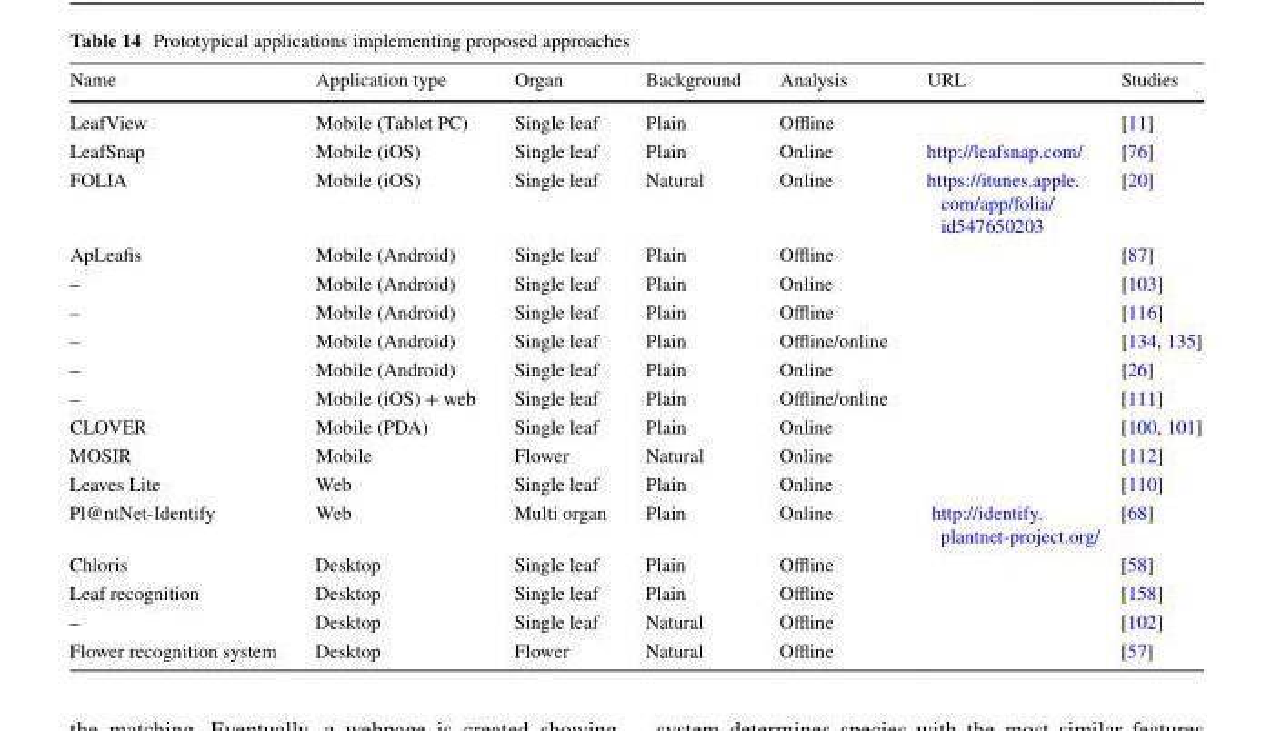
<table><thead><tr><td>Name</td><td>Application type</td><td>Organ</td><td>Background</td><td>Analysis</td><td>URL</td><td>Studies</td></tr></thead><tbody><tr><td>LeafView</td><td>Mobile (Tablet PC)</td><td>Single leaf</td><td>Plain</td><td>Offline</td><td></td><td>[11]</td></tr><tr><td>LeafSnap</td><td>Mobile (iOS)</td><td>Single leaf</td><td>Plain</td><td>Online</td><td>http://leafsnap.com/</td><td>[76]</td></tr><tr><td>FOLIA</td><td>Mobile (iOS)</td><td>Single leaf</td><td>Natural</td><td>Online</td><td>https://itunes.apple. com/app/folia/ id547650203</td><td>[20]</td></tr><tr><td>ApLeafis</td><td>Mobile (Android)</td><td>Single leaf</td><td>Plain</td><td>Offline</td><td></td><td>[87]</td></tr><tr><td>–</td><td>Mobile (Android)</td><td>Single leaf</td><td>Plain</td><td>Online</td><td></td><td>[103]</td></tr><tr><td>–</td><td>Mobile (Android)</td><td>Single leaf</td><td>Plain</td><td>Offline</td><td></td><td>[116]</td></tr><tr><td>–</td><td>Mobile (Android)</td><td>Single leaf</td><td>Plain</td><td>Offline/online</td><td></td><td>[134, 135]</td></tr><tr><td>–</td><td>Mobile (Android)</td><td>Single leaf</td><td>Plain</td><td>Online</td><td></td><td>[26]</td></tr><tr><td>–</td><td>Mobile (iOS) + web</td><td>Single leaf</td><td>Plain</td><td>Offline/online</td><td></td><td>[111]</td></tr><tr><td>CLOVER</td><td>Mobile (PDA)</td><td>Single leaf</td><td>Plain</td><td>Online</td><td></td><td>[100, 101]</td></tr><tr><td>MOSIR</td><td>Mobile</td><td>Flower</td><td>Natural</td><td>Online</td><td></td><td>[112]</td></tr><tr><td>Leaves Lite</td><td>Web</td><td>Single leaf</td><td>Plain</td><td>Online</td><td></td><td>[110]</td></tr><tr><td>Pl@ntNet-Identify</td><td>Web</td><td>Multi organ</td><td>Plain</td><td>Online</td><td>http://identify. plantnet-project.org/</td><td>[68]</td></tr><tr><td>Chloris</td><td>Desktop</td><td>Single leaf</td><td>Plain</td><td>Offline</td><td></td><td>[58]</td></tr><tr><td>Leaf recognition</td><td>Desktop</td><td>Single leaf</td><td>Plain</td><td>Offline</td><td></td><td>[158]</td></tr><tr><td>–</td><td>Desktop</td><td>Single leaf</td><td>Natural</td><td>Offline</td><td></td><td>[102]</td></tr><tr><td>Flower recognition system</td><td>Desktop</td><td>Flower</td><td>Natural</td><td>Offline</td><td></td><td>[57]</td></tr></tbody></table>